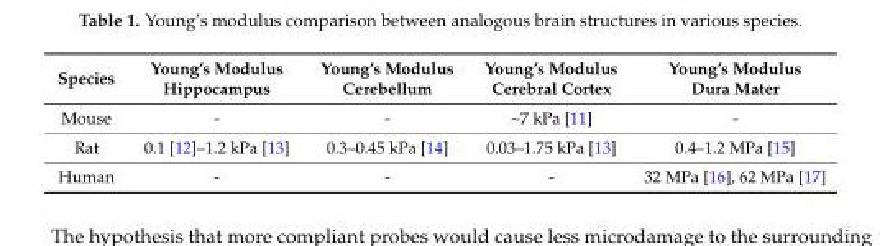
<table><thead><tr><td>Species</td><td>Young’s Modulus Hippocampus</td><td>Young’s Modulus Cerebellum</td><td>Young’s Modulus Cerebral Cortex</td><td>Young’s Modulus Dura Mater</td></tr></thead><tbody><tr><td>Mouse</td><td>-</td><td>-</td><td>~7 kPa [11]</td><td>-</td></tr><tr><td>Rat</td><td>0.1 [12]–1.2 kPa [13]</td><td>0.3–0.45 kPa [14]</td><td>0.03–1.75 kPa [13]</td><td>0.4–1.2 MPa [15]</td></tr><tr><td>Human</td><td>-</td><td>-</td><td>-</td><td>32 MPa [16], 62 MPa [17]</td></tr></tbody></table>